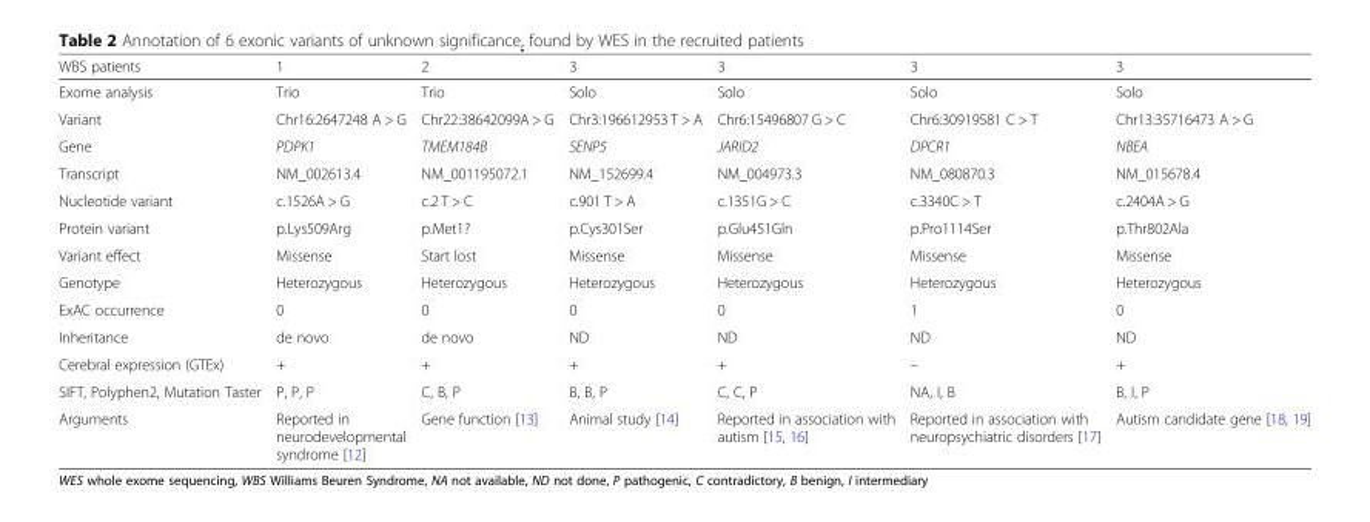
<table><thead><tr><td>WBS patients</td><td>1</td><td>2</td><td>3</td><td>3</td><td>3</td><td>3</td></tr></thead><tbody><tr><td>Exome analysis</td><td>Trio</td><td>Trio</td><td>Solo</td><td>Solo</td><td>Solo</td><td>Solo</td></tr><tr><td>Variant</td><td>Chr16:2647248 A &gt; G</td><td>Chr22:38642099A &gt; G</td><td>Chr3:196612953 T &gt; A</td><td>Chr6:15496807 G &gt; C</td><td>Chr6:30919581 C &gt; T</td><td>Chr13:35716473 A &gt; G</td></tr><tr><td>Gene</td><td>PDPK1</td><td>TMEM184B</td><td>SENP5</td><td>JARID2</td><td>DPCR1</td><td>NBEA</td></tr><tr><td>Transcript</td><td>NM_002613.4</td><td>NM_001195072.1</td><td>NM_152699.4</td><td>NM_004973.3</td><td>NM_080870.3</td><td>NM_015678.4</td></tr><tr><td>Nucleotide variant</td><td>c.1526A &gt; G</td><td>c.2 T &gt; C</td><td>c.901 T &gt; A</td><td>c.1351G &gt; C</td><td>c.3340C &gt; T</td><td>c.2404A &gt; G</td></tr><tr><td>Protein variant</td><td>p.Lys509Arg</td><td>p.Met1?</td><td>p.Cys301Ser</td><td>p.Glu451Gln</td><td>p.Pro1114Ser</td><td>p.Thr802Ala</td></tr><tr><td>Variant effect</td><td>Missense</td><td>Start lost</td><td>Missense</td><td>Missense</td><td>Missense</td><td>Missense</td></tr><tr><td>Genotype</td><td>Heterozygous</td><td>Heterozygous</td><td>Heterozygous</td><td>Heterozygous</td><td>Heterozygous</td><td>Heterozygous</td></tr><tr><td>ExAC occurrence</td><td>0</td><td>0</td><td>0</td><td>0</td><td>1</td><td>0</td></tr><tr><td>Inheritance</td><td>de novo</td><td>de novo</td><td>ND</td><td>ND</td><td>ND</td><td>ND</td></tr><tr><td>Cerebral expression (GTEx)</td><td>+</td><td>+</td><td>+</td><td>+</td><td>–</td><td>+</td></tr><tr><td>SIFT, Polyphen2, Mutation Taster</td><td>P, P, P</td><td>C, B, P</td><td>B, B, P</td><td>C, C, P</td><td>NA, I, B</td><td>B, I, P</td></tr><tr><td>Arguments</td><td>Reported in neurodevelopmental syndrome [12]</td><td>Gene function [13]</td><td>Animal study [14]</td><td>Reported in association with autism [15, 16]</td><td>Reported in association with neuropsychiatric disorders [17]</td><td>Autism candidate gene [18, 19]</td></tr></tbody></table>